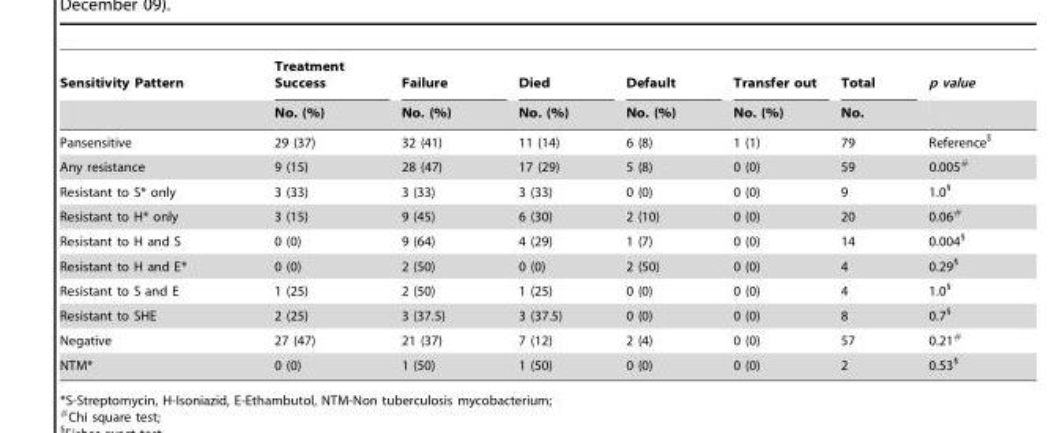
<table><thead><tr><td rowspan="2">Sensitivity Pattern</td><td rowspan="2">Treatment Success No. (%)</td><td rowspan="2">Failure No. (%)</td><td rowspan="2">Died No. (%)</td><td rowspan="2">Default No. (%)</td><td rowspan="2">Transfer out No. (%)</td><td rowspan="2">Total No.</td><td rowspan="2">p value</td></tr><tr></tr></thead><tbody><tr><td>Pansensitive</td><td>29 (37)</td><td>32 (41)</td><td>11 (14)</td><td>6 (8)</td><td>1 (1)</td><td>79</td><td>Reference$</td></tr><tr><td>Any resistance</td><td>9 (15)</td><td>28 (47)</td><td>17 (29)</td><td>5 (8)</td><td>0 (0)</td><td>59</td><td>0.005#</td></tr><tr><td>Resistant to S* only</td><td>3 (33)</td><td>3 (33)</td><td>3 (33)</td><td>0 (0)</td><td>0 (0)</td><td>9</td><td>1.0§</td></tr><tr><td>Resistant to H* only</td><td>3 (15)</td><td>9 (45)</td><td>6 (30)</td><td>2 (10)</td><td>0 (0)</td><td>20</td><td>0.06#</td></tr><tr><td>Resistant to H and S</td><td>0 (0)</td><td>9 (64)</td><td>4 (29)</td><td>1 (7)</td><td>0 (0)</td><td>14</td><td>0.004§</td></tr><tr><td>Resistant to H and E*</td><td>0 (0)</td><td>2 (50)</td><td>0 (0)</td><td>2 (50)</td><td>0 (0)</td><td>4</td><td>0.29§</td></tr><tr><td>Resistant to S and E</td><td>1 (25)</td><td>2 (50)</td><td>1 (25)</td><td>0 (0)</td><td>0 (0)</td><td>4</td><td>1.0§</td></tr><tr><td>Resistant to SHE</td><td>2 (25)</td><td>3 (37.5)</td><td>3 (37.5)</td><td>0 (0)</td><td>0 (0)</td><td>8</td><td>0.7§</td></tr><tr><td>Negative</td><td>27 (47)</td><td>21 (37)</td><td>7 (12)</td><td>2 (4)</td><td>0 (0)</td><td>57</td><td>0.21#</td></tr><tr><td>NTM*</td><td>0 (0)</td><td>1 (50)</td><td>1 (50)</td><td>0 (0)</td><td>0 (0)</td><td>2</td><td>0.53§</td></tr></tbody></table>